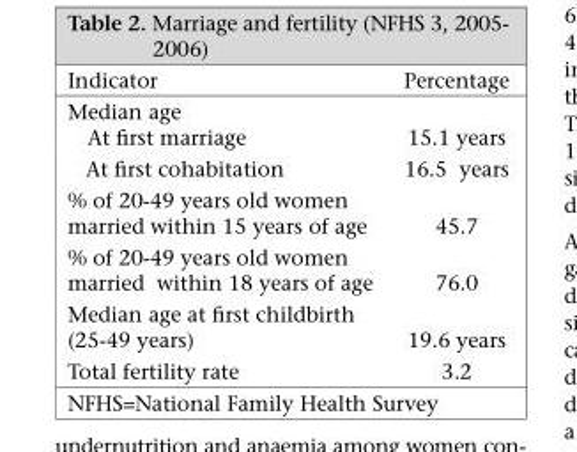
<table><thead><tr><td>Indicator</td><td>Percentage</td></tr></thead><tbody><tr><td colspan="2">Median age</td></tr><tr><td>At first marriage</td><td>15.1 years</td></tr><tr><td>At first cohabitation</td><td>16.5 years</td></tr><tr><td>% of 20-49 years old women married within 15 years of age</td><td>45.7</td></tr><tr><td>% of 20-49 years old women married within 18 years of age</td><td>76.0</td></tr><tr><td>Median age at first childbirth (25-49 years)</td><td>19.6 years</td></tr><tr><td>Total fertility rate</td><td>3.2</td></tr></tbody></table>